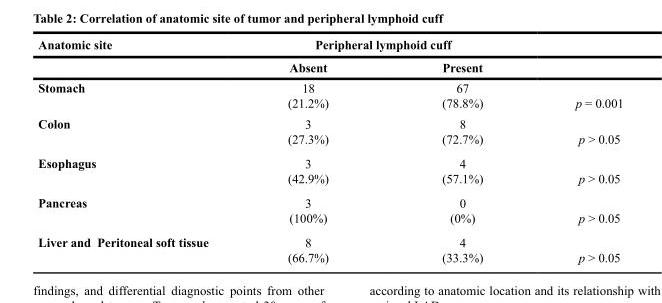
<table><thead><tr><td rowspan="2">Anatomic site</td><td colspan="2">Peripheral lymphoid cuff</td><td rowspan="2"></td></tr><tr><td>Absent</td><td>Present</td></tr></thead><tbody><tr><td>Stomach</td><td>18 (21.2%)</td><td>67 (78.8%)</td><td>p = 0.001</td></tr><tr><td>Colon</td><td>3 (27.3%)</td><td>8 (72.7%)</td><td>p &gt; 0.05</td></tr><tr><td>Esophagus</td><td>3 (42.9%)</td><td>4 (57.1%)</td><td>p &gt; 0.05</td></tr><tr><td>Pancreas</td><td>3 (100%)</td><td>0 (0%)</td><td>p &gt; 0.05</td></tr><tr><td>Liver and Peritoneal soft tissue</td><td>8 (66.7%)</td><td>4 (33.3%)</td><td>p &gt; 0.05</td></tr></tbody></table>